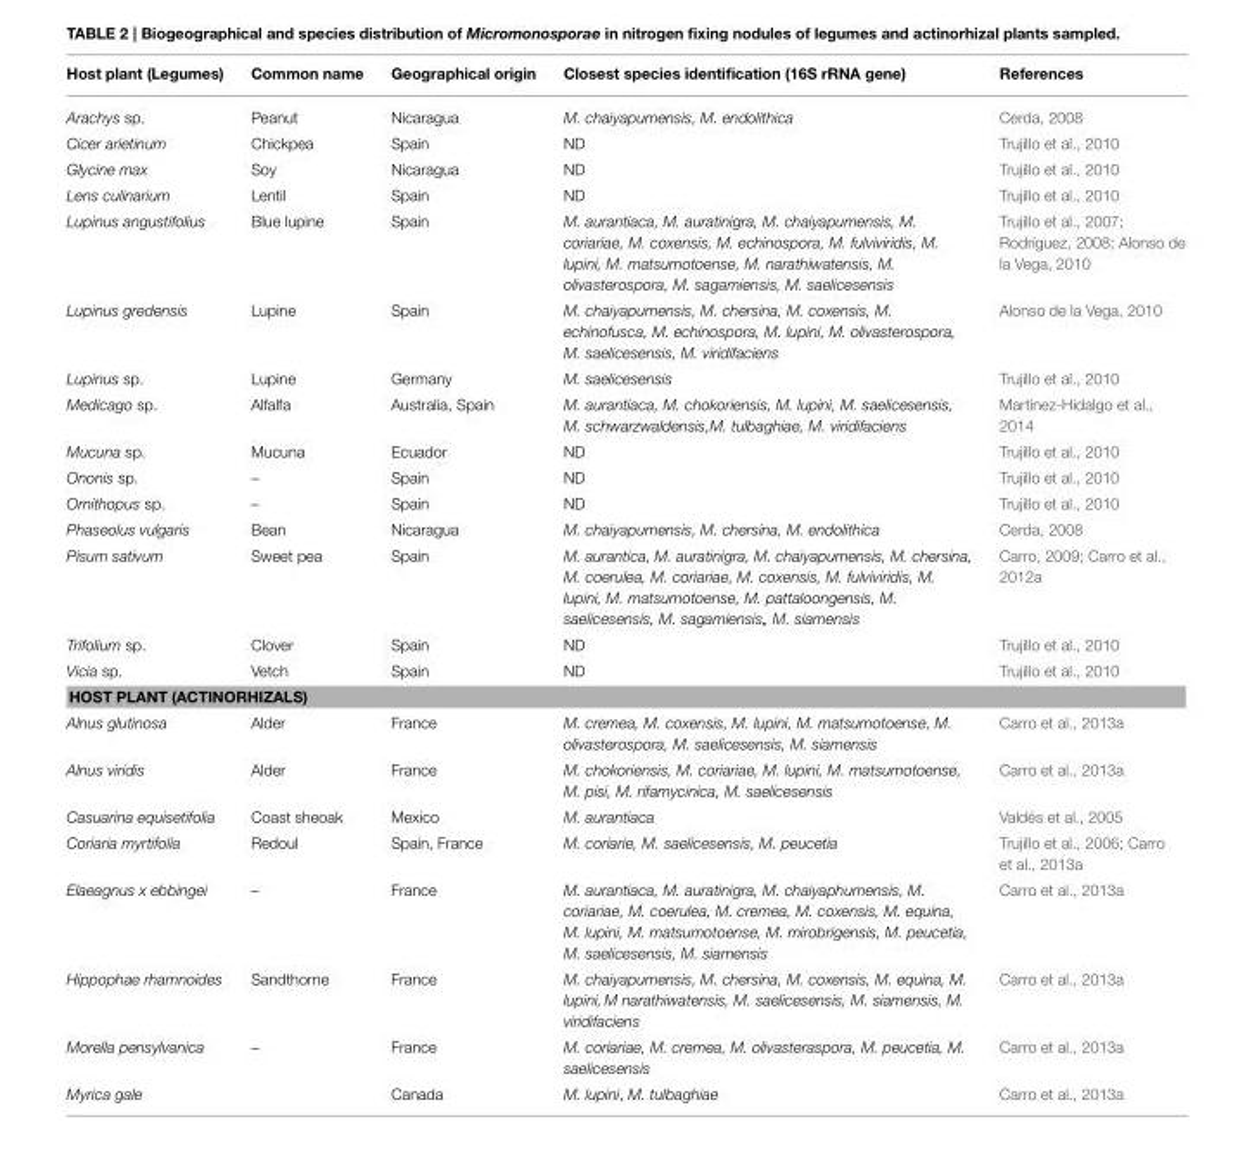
<table><thead><tr><td>Host plant (Legumes)</td><td>Common name</td><td>Geographical origin</td><td>Closest species identification (16S rRNA gene)</td><td>References</td></tr></thead><tbody><tr><td>Arachys sp.</td><td>Peanut</td><td>Nicaragua</td><td>M. chaiyapumensis, M. endolithica</td><td>Cerda, 2008</td></tr><tr><td>Cicer arietinum</td><td>Chickpea</td><td>Spain</td><td>ND</td><td>Trujillo et al., 2010</td></tr><tr><td>Glycine max</td><td>Soy</td><td>Nicaragua</td><td>ND</td><td>Trujillo et al., 2010</td></tr><tr><td>Lens culinarium</td><td>Lentil</td><td>Spain</td><td>ND</td><td>Trujillo et al., 2010</td></tr><tr><td>Lupinus angustifolius</td><td>Blue lupine</td><td>Spain</td><td>M. aurantiaca, M. auratinigra, M. chaiyapumensis, M. coriariae, M. coxensis, M. echinospora, M. fulviviridis, M. lupini, M. matsumotoense, M. narathiwatensis, M. olivasterospora, M. sagamiensis, M. saelicesensis</td><td>Trujillo et al., 2007; Rodríguez, 2008; Alonso de la Vega, 2010</td></tr><tr><td>Lupinus gredensis</td><td>Lupine</td><td>Spain</td><td>M. chaiyapumensis, M. chersina, M. coxensis, M. echinofusca, M. echinospora, M. lupini, M. olivasterospora, M. saelicesensis, M. viridifaciens</td><td>Alonso de la Vega, 2010</td></tr><tr><td>Lupinus sp.</td><td>Lupine</td><td>Germany</td><td>M. saelicesensis</td><td>Trujillo et al., 2010</td></tr><tr><td>Medicago sp.</td><td>Alfalfa</td><td>Australia, Spain</td><td>M. aurantiaca, M. chokoriensis, M. lupini, M. saelicesensis, M. schwarzwaldensis,M. tulbaghiae, M. viridifaciens</td><td>Martínez-Hidalgo et al., 2014</td></tr><tr><td>Mucuna sp.</td><td>Mucuna</td><td>Ecuador</td><td>ND</td><td>Trujillo et al., 2010</td></tr><tr><td>Ononis sp.</td><td>–</td><td>Spain</td><td>ND</td><td>Trujillo et al., 2010</td></tr><tr><td>Ornithopus sp.</td><td>–</td><td>Spain</td><td>ND</td><td>Trujillo et al., 2010</td></tr><tr><td>Phaseolus vulgaris</td><td>Bean</td><td>Nicaragua</td><td>M. chaiyapumensis, M. chersina, M. endolithica</td><td>Cerda, 2008</td></tr><tr><td>Pisum sativum</td><td>Sweet pea</td><td>Spain</td><td>M. aurantica, M. auratinigra, M. chaiyapumensis, M. chersina, M. coerulea, M. coriariae, M. coxensis, M. fulviviridis, M. lupini, M. matsumotoense, M. pattaloongensis, M. saelicesensis, M. sagamiensis„ M. siamensis</td><td>Carro, 2009; Carro et al., 2012a</td></tr><tr><td>Trifolium sp.</td><td>Clover</td><td>Spain</td><td>ND</td><td>Trujillo et al., 2010</td></tr><tr><td>Vicia sp.</td><td>Vetch</td><td>Spain</td><td>ND</td><td>Trujillo et al., 2010</td></tr><tr><td colspan="5">HOST PLANT (ACTINORHIZALS)</td></tr><tr><td>Alnus glutinosa</td><td>Alder</td><td>France</td><td>M. cremea, M. coxensis, M. lupini, M. matsumotoense, M. olivasterospora, M. saelicesensis, M. siamensis</td><td>Carro et al., 2013a</td></tr><tr><td>Alnus viridis</td><td>Alder</td><td>France</td><td>M. chokoriensis, M. coriariae, M. lupini, M. matsumotoense, M. pisi, M. rifamycinica, M. saelicesensis</td><td>Carro et al., 2013a</td></tr><tr><td>Casuarina equisetifolia</td><td>Coast sheoak</td><td>Mexico</td><td>M. aurantiaca</td><td>Valdés et al., 2005</td></tr><tr><td>Coriaria myrtifolia</td><td>Redoul</td><td>Spain, France</td><td>M. coriarie, M. saelicesensis, M. peucetia</td><td>Trujillo et al., 2006; Carro et al., 2013a</td></tr><tr><td>Elaeagnus x ebbingei</td><td>–</td><td>France</td><td>M. aurantiaca, M. auratinigra, M. chaiyaphumensis, M. coriariae, M. coerulea, M. cremea, M. coxensis, M. equina, M. lupini, M. matsumotoense, M. mirobrigensis, M. peucetia, M. saelicesensis, M. siamensis</td><td>Carro et al., 2013a</td></tr><tr><td>Hippophae rhamnoides</td><td>Sandthorne</td><td>France</td><td>M. chaiyapumensis, M. chersina, M. coxensis, M. equina, M. lupini, M narathiwatensis, M. saelicesensis, M. siamensis, M. viridifaciens</td><td>Carro et al., 2013a</td></tr><tr><td>Morella pensylvanica</td><td>–</td><td>France</td><td>M. coriariae, M. cremea, M. olivasteraspora, M. peucetia, M. saelicesensis</td><td>Carro et al., 2013a</td></tr><tr><td>Myrica gale</td><td></td><td>Canada</td><td>M. lupini, M. tulbaghiae</td><td>Carro et al., 2013a</td></tr></tbody></table>